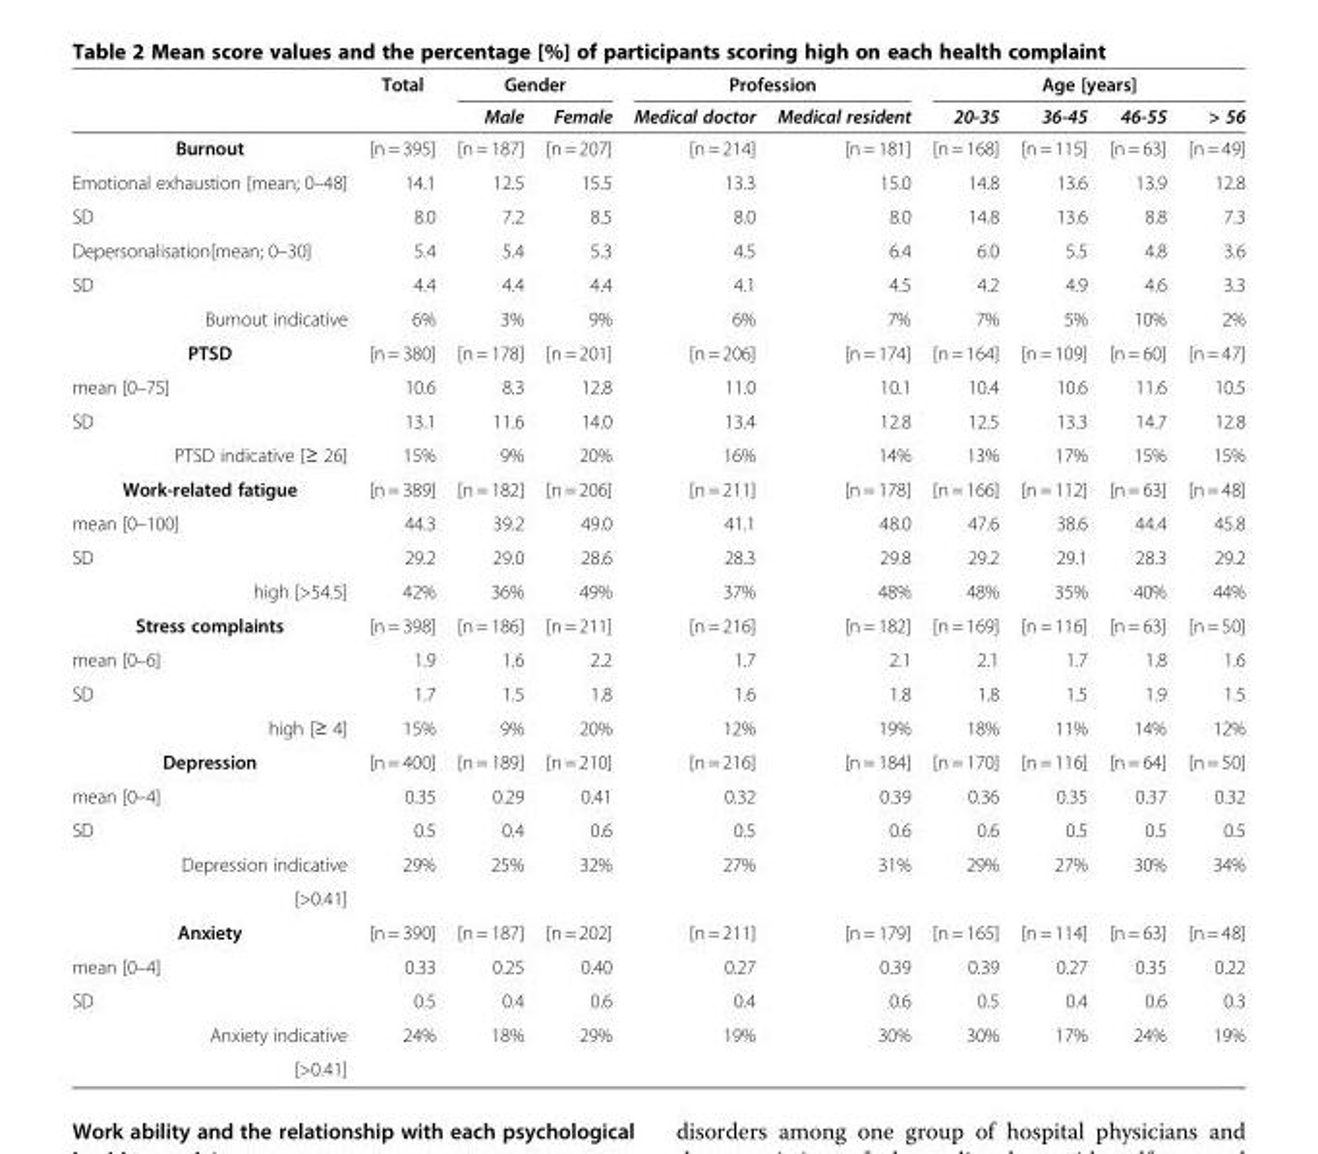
<table><thead><tr><td rowspan="2"></td><td rowspan="2">Total</td><td colspan="2">Gender</td><td colspan="2">Profession</td><td colspan="4">Age [years]</td></tr><tr><td>Male</td><td>Female</td><td>Medical doctor</td><td>Medical resident</td><td>20-35</td><td>36-45</td><td>46-55</td><td>&gt; 56</td></tr></thead><tbody><tr><td>Burnout</td><td>[n = 395]</td><td>[n = 187]</td><td>[n = 207]</td><td>[n = 214]</td><td>[n = 181]</td><td>[n = 168]</td><td>[n = 115]</td><td>[n = 63]</td><td>[n = 49]</td></tr><tr><td>Emotional exhaustion [mean; 0–48]</td><td>14.1</td><td>12.5</td><td>15.5</td><td>13.3</td><td>15.0</td><td>14.8</td><td>13.6</td><td>13.9</td><td>12.8</td></tr><tr><td>SD</td><td>8.0</td><td>7.2</td><td>8.5</td><td>8.0</td><td>8.0</td><td>14.8</td><td>13.6</td><td>8.8</td><td>7.3</td></tr><tr><td>Depersonalisation[mean; 0–30]</td><td>5.4</td><td>5.4</td><td>5.3</td><td>4.5</td><td>6.4</td><td>6.0</td><td>5.5</td><td>4.8</td><td>3.6</td></tr><tr><td>SD</td><td>4.4</td><td>4.4</td><td>4.4</td><td>4.1</td><td>4.5</td><td>4.2</td><td>4.9</td><td>4.6</td><td>3.3</td></tr><tr><td>Burnout indicative</td><td>6%</td><td>3%</td><td>9%</td><td>6%</td><td>7%</td><td>7%</td><td>5%</td><td>10%</td><td>2%</td></tr><tr><td>PTSD</td><td>[n = 380]</td><td>[n = 178]</td><td>[n = 201]</td><td>[n = 206]</td><td>[n = 174]</td><td>[n = 164]</td><td>[n = 109]</td><td>[n = 60]</td><td>[n = 47]</td></tr><tr><td>mean [0–75]</td><td>10.6</td><td>8.3</td><td>12.8</td><td>11.0</td><td>10.1</td><td>10.4</td><td>10.6</td><td>11.6</td><td>10.5</td></tr><tr><td>SD</td><td>13.1</td><td>11.6</td><td>14.0</td><td>13.4</td><td>12.8</td><td>12.5</td><td>13.3</td><td>14.7</td><td>12.8</td></tr><tr><td>PTSD indicative [≥ 26]</td><td>15%</td><td>9%</td><td>20%</td><td>16%</td><td>14%</td><td>13%</td><td>17%</td><td>15%</td><td>15%</td></tr><tr><td>Work-related fatigue</td><td>[n = 389]</td><td>[n = 182]</td><td>[n = 206]</td><td>[n = 211]</td><td>[n = 178]</td><td>[n = 166]</td><td>[n = 112]</td><td>[n = 63]</td><td>[n = 48]</td></tr><tr><td>mean [0–100]</td><td>44.3</td><td>39.2</td><td>49.0</td><td>41.1</td><td>48.0</td><td>47.6</td><td>38.6</td><td>44.4</td><td>45.8</td></tr><tr><td>SD</td><td>29.2</td><td>29.0</td><td>28.6</td><td>28.3</td><td>29.8</td><td>29.2</td><td>29.1</td><td>28.3</td><td>29.2</td></tr><tr><td>high [&gt;54.5]</td><td>42%</td><td>36%</td><td>49%</td><td>37%</td><td>48%</td><td>48%</td><td>35%</td><td>40%</td><td>44%</td></tr><tr><td>Stress complaints</td><td>[n = 398]</td><td>[n = 186]</td><td>[n = 211]</td><td>[n = 216]</td><td>[n = 182]</td><td>[n = 169]</td><td>[n = 116]</td><td>[n = 63]</td><td>[n = 50]</td></tr><tr><td>mean [0–6]</td><td>1.9</td><td>1.6</td><td>2.2</td><td>1.7</td><td>2.1</td><td>2.1</td><td>1.7</td><td>1.8</td><td>1.6</td></tr><tr><td>SD</td><td>1.7</td><td>1.5</td><td>1.8</td><td>1.6</td><td>1.8</td><td>1.8</td><td>1.5</td><td>1.9</td><td>1.5</td></tr><tr><td>high [≥ 4]</td><td>15%</td><td>9%</td><td>20%</td><td>12%</td><td>19%</td><td>18%</td><td>11%</td><td>14%</td><td>12%</td></tr><tr><td>Depression</td><td>[n = 400]</td><td>[n = 189]</td><td>[n = 210]</td><td>[n = 216]</td><td>[n = 184]</td><td>[n = 170]</td><td>[n = 116]</td><td>[n = 64]</td><td>[n = 50]</td></tr><tr><td>mean [0–4]</td><td>0.35</td><td>0.29</td><td>0.41</td><td>0.32</td><td>0.39</td><td>0.36</td><td>0.35</td><td>0.37</td><td>0.32</td></tr><tr><td>SD</td><td>0.5</td><td>0.4</td><td>0.6</td><td>0.5</td><td>0.6</td><td>0.6</td><td>0.5</td><td>0.5</td><td>0.5</td></tr><tr><td>Depression indicative</td><td rowspan="2">29%</td><td rowspan="2">25%</td><td rowspan="2">32%</td><td rowspan="2">27%</td><td rowspan="2">31%</td><td rowspan="2">29%</td><td rowspan="2">27%</td><td rowspan="2">30%</td><td rowspan="2">34%</td></tr><tr><td>[&gt;0.41]</td></tr><tr><td>Anxiety</td><td>[n = 390]</td><td>[n = 187]</td><td>[n = 202]</td><td>[n = 211]</td><td>[n = 179]</td><td>[n = 165]</td><td>[n = 114]</td><td>[n = 63]</td><td>[n = 48]</td></tr><tr><td>mean [0–4]</td><td>0.33</td><td>0.25</td><td>0.40</td><td>0.27</td><td>0.39</td><td>0.39</td><td>0.27</td><td>0.35</td><td>0.22</td></tr><tr><td>SD</td><td>0.5</td><td>0.4</td><td>0.6</td><td>0.4</td><td>0.6</td><td>0.5</td><td>0.4</td><td>0.6</td><td>0.3</td></tr><tr><td>Anxiety indicative</td><td>24%</td><td>18%</td><td>29%</td><td>19%</td><td>30%</td><td>30%</td><td>17%</td><td>24%</td><td>19%</td></tr><tr><td>[&gt;0.41]</td><td></td><td></td><td></td><td></td><td></td><td></td><td></td><td></td><td></td></tr></tbody></table>